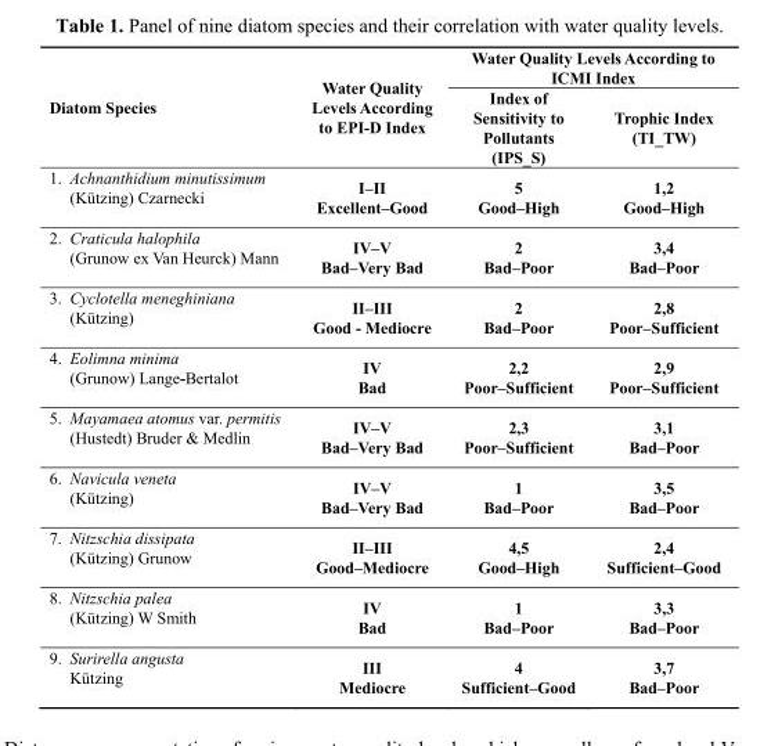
<table><thead><tr><td rowspan="2">Diatom Species</td><td rowspan="2">Water Quality Levels According to EPI-D Index</td><td colspan="2">Water Quality Levels According to ICMI Index</td></tr><tr><td>Index of Sensitivity to Pollutants (IPS_S)</td><td>Trophic Index (TI_TW)</td></tr></thead><tbody><tr><td>1. Achnanthidium minutissimum (Kützing) Czarnecki</td><td>I–II Excellent–Good</td><td>5 Good–High</td><td>1,2 Good–High</td></tr><tr><td>2. Craticula halophila (Grunow ex Van Heurck) Mann</td><td>IV–V Bad–Very Bad</td><td>2 Bad–Poor</td><td>3,4 Bad–Poor</td></tr><tr><td>3. Cyclotella meneghiniana (Kützing)</td><td>II–III Good - Mediocre</td><td>2 Bad–Poor</td><td>2,8 Poor–Sufficient</td></tr><tr><td>4. Eolimna minima (Grunow) Lange-Bertalot</td><td>IV Bad</td><td>2,2 Poor–Sufficient</td><td>2,9 Poor–Sufficient</td></tr><tr><td>5. Mayamaea atomus var. permitis (Hustedt) Bruder &amp; Medlin</td><td>IV–V Bad–Very Bad</td><td>2,3 Poor–Sufficient</td><td>3,1 Bad–Poor</td></tr><tr><td>6. Navicula veneta (Kützing)</td><td>IV–V Bad–Very Bad</td><td>1 Bad–Poor</td><td>3,5 Bad–Poor</td></tr><tr><td>7. Nitzschia dissipata (Kützing) Grunow</td><td>II–III Good–Mediocre</td><td>4,5 Good–High</td><td>2,4 Sufficient–Good</td></tr><tr><td>8. Nitzschia palea (Kützing) W Smith</td><td>IV Bad</td><td>1 Bad–Poor</td><td>3,3 Bad–Poor</td></tr><tr><td>9. Surirella angusta Kützing</td><td>III Mediocre</td><td>4 Sufficient–Good</td><td>3,7 Bad–Poor</td></tr></tbody></table>